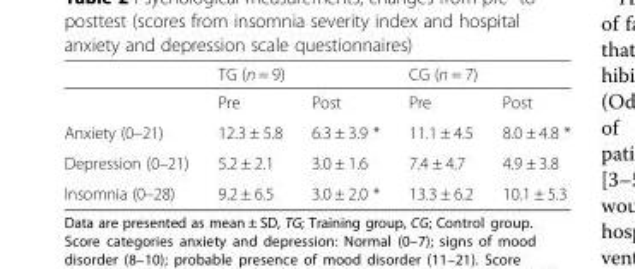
<table><thead><tr><td rowspan="2"></td><td colspan="2">TG (n = 9)</td><td colspan="2">CG (n = 7)</td></tr><tr><td>Pre</td><td>Post</td><td>Pre</td><td>Post</td></tr></thead><tbody><tr><td>Anxiety (0–21)</td><td>12.3 ± 5.8</td><td>6.3 ± 3.9 *</td><td>11.1 ± 4.5</td><td>8.0 ± 4.8 *</td></tr><tr><td>Depression (0–21)</td><td>5.2 ± 2.1</td><td>3.0 ± 1.6</td><td>7.4 ± 4.7</td><td>4.9 ± 3.8</td></tr><tr><td>Insomnia (0–28)</td><td>9.2 ± 6.5</td><td>3.0 ± 2.0 *</td><td>13.3 ± 6.2</td><td>10.1 ± 5.3</td></tr></tbody></table>